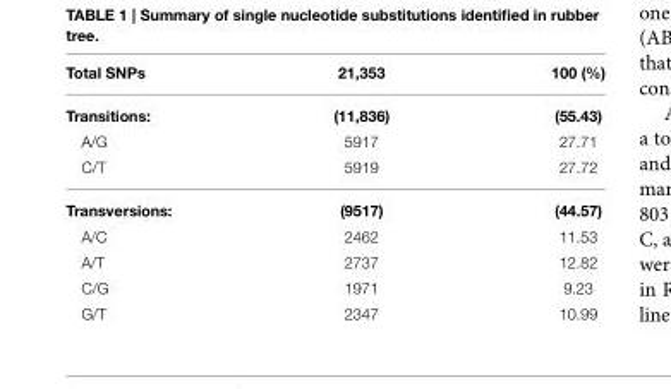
<table><thead><tr><td>Total SNPs</td><td>21,353</td><td>100 (%)</td></tr></thead><tbody><tr><td>Transitions:</td><td>(11,836)</td><td>(55.43)</td></tr><tr><td>A/G</td><td>5917</td><td>27.71</td></tr><tr><td>C/T</td><td>5919</td><td>27.72</td></tr><tr><td>Transversions:</td><td>(9517)</td><td>(44.57)</td></tr><tr><td>A/C</td><td>2462</td><td>11.53</td></tr><tr><td>A/T</td><td>2737</td><td>12.82</td></tr><tr><td>C/G</td><td>1971</td><td>9.23</td></tr><tr><td>G/T</td><td>2347</td><td>10.99</td></tr></tbody></table>